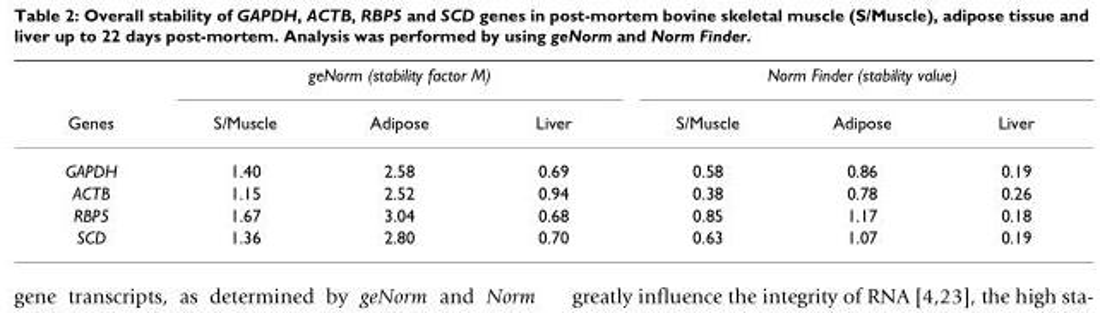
<table><thead><tr><td rowspan="2">Genes</td><td colspan="3">geNorm (stability factor M)</td><td colspan="3">Norm Finder (stability value)</td></tr><tr><td>S/Muscle</td><td>Adipose</td><td>Liver</td><td>S/Muscle</td><td>Adipose</td><td>Liver</td></tr></thead><tbody><tr><td>GAPDH</td><td>1.40</td><td>2.58</td><td>0.69</td><td>0.58</td><td>0.86</td><td>0.19</td></tr><tr><td>ACTB</td><td>1.15</td><td>2.52</td><td>0.94</td><td>0.38</td><td>0.78</td><td>0.26</td></tr><tr><td>RBP5</td><td>1.67</td><td>3.04</td><td>0.68</td><td>0.85</td><td>1.17</td><td>0.18</td></tr><tr><td>SCD</td><td>1.36</td><td>2.80</td><td>0.70</td><td>0.63</td><td>1.07</td><td>0.19</td></tr></tbody></table>